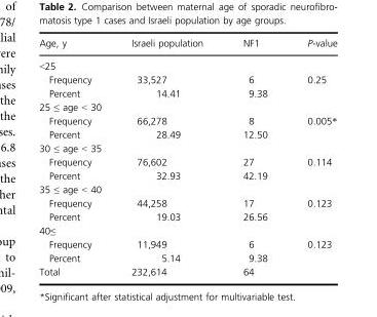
<table><thead><tr><td>Age, y</td><td>Israeli population</td><td>NF1</td><td>P-value</td></tr></thead><tbody><tr><td colspan="4">&lt;25</td></tr><tr><td>Frequency</td><td>33,527</td><td>6</td><td rowspan="2">0.25</td></tr><tr><td>Percent</td><td>14.41</td><td>9.38</td></tr><tr><td colspan="4">25 ≤ age &lt; 30</td></tr><tr><td>Frequency</td><td>66,278</td><td>8</td><td rowspan="2">0.005*</td></tr><tr><td>Percent</td><td>28.49</td><td>12.50</td></tr><tr><td colspan="4">30 ≤ age &lt; 35</td></tr><tr><td>Frequency</td><td>76,602</td><td>27</td><td rowspan="2">0.114</td></tr><tr><td>Percent</td><td>32.93</td><td>42.19</td></tr><tr><td colspan="4">35 ≤ age &lt; 40</td></tr><tr><td>Frequency</td><td>44,258</td><td>17</td><td rowspan="2">0.123</td></tr><tr><td>Percent</td><td>19.03</td><td>26.56</td></tr><tr><td colspan="4">40≤</td></tr><tr><td>Frequency</td><td>11,949</td><td>6</td><td rowspan="2">0.123</td></tr><tr><td>Percent</td><td>5.14</td><td>9.38</td></tr><tr><td>Total</td><td>232,614</td><td>64</td><td></td></tr></tbody></table>